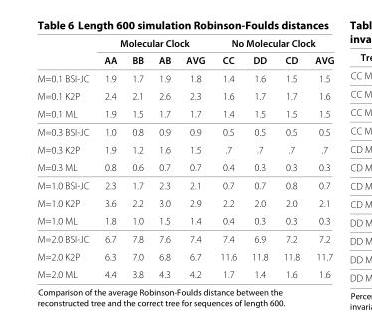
<table><thead><tr><td rowspan="2"></td><td colspan="4">Molecular Clock</td><td colspan="4">No Molecular Clock</td></tr><tr><td>AA</td><td>BB</td><td>AB</td><td>AVG</td><td>CC</td><td>DD</td><td>CD</td><td>AVG</td></tr></thead><tbody><tr><td>M=0.1 BSI-JC</td><td>1.9</td><td>1.7</td><td>1.9</td><td>1.8</td><td>1.4</td><td>1.6</td><td>1.5</td><td>1.5</td></tr><tr><td>M=0.1 K2P</td><td>2.4</td><td>2.1</td><td>2.6</td><td>2.3</td><td>1.6</td><td>1.7</td><td>1.7</td><td>1.6</td></tr><tr><td>M=0.1 ML</td><td>1.9</td><td>1.5</td><td>1.7</td><td>1.7</td><td>1.4</td><td>1.5</td><td>1.5</td><td>1.5</td></tr><tr><td>M=0.3 BSI-JC</td><td>1.0</td><td>0.8</td><td>0.9</td><td>0.9</td><td>0.5</td><td>0.5</td><td>0.5</td><td>0.5</td></tr><tr><td>M=0.3 K2P</td><td>1.9</td><td>1.2</td><td>1.6</td><td>1.5</td><td>.7</td><td>.7</td><td>.7</td><td>.7</td></tr><tr><td>M=0.3 ML</td><td>0.8</td><td>0.6</td><td>0.7</td><td>0.7</td><td>0.4</td><td>0.3</td><td>0.3</td><td>0.3</td></tr><tr><td>M=1.0 BSI-JC</td><td>2.3</td><td>1.7</td><td>2.3</td><td>2.1</td><td>0.7</td><td>0.7</td><td>0.8</td><td>0.7</td></tr><tr><td>M=1.0 K2P</td><td>3.6</td><td>2.2</td><td>3.0</td><td>2.9</td><td>2.2</td><td>2.0</td><td>2.0</td><td>2.1</td></tr><tr><td>M=1.0 ML</td><td>1.8</td><td>1.0</td><td>1.5</td><td>1.4</td><td>0.4</td><td>0.3</td><td>0.3</td><td>0.3</td></tr><tr><td>M=2.0 BSI-JC</td><td>6.7</td><td>7.8</td><td>7.6</td><td>7.4</td><td>7.4</td><td>6.9</td><td>7.2</td><td>7.2</td></tr><tr><td>M=2.0 K2P</td><td>6.3</td><td>7.0</td><td>6.8</td><td>6.7</td><td>11.6</td><td>11.8</td><td>11.8</td><td>11.7</td></tr><tr><td>M=2.0 ML</td><td>4.4</td><td>3.8</td><td>4.3</td><td>4.2</td><td>1.7</td><td>1.4</td><td>1.6</td><td>1.6</td></tr></tbody></table>